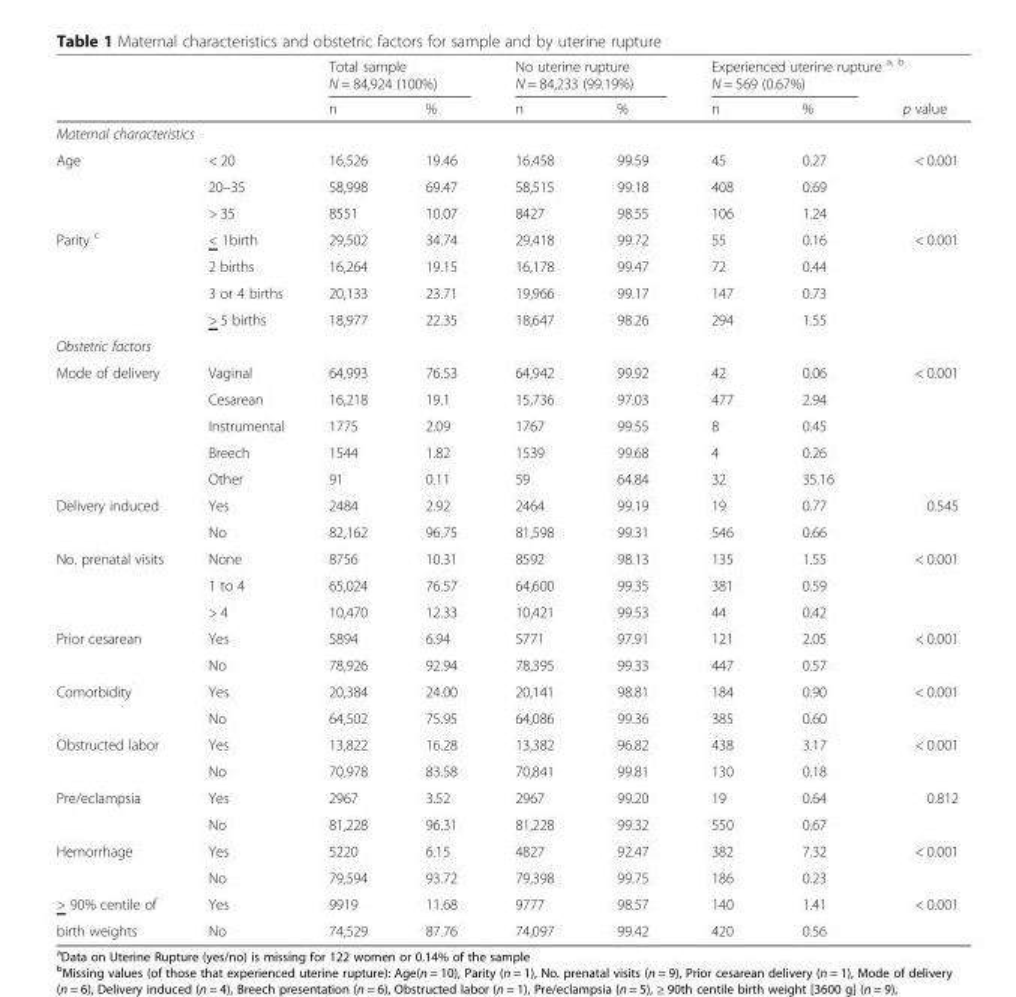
<table><thead><tr><td rowspan="3"></td><td rowspan="3"></td><td rowspan="2" colspan="2">Total sample N = 84,924 (100%)</td><td rowspan="2" colspan="2">No uterine rupture N = 84,233 (99.19%)</td><td colspan="3">Experienced uterine rupture <sup>a, b</sup></td></tr><tr><td colspan="2">N = 569 (0.67%)</td><td rowspan="2">p value</td></tr><tr><td>n</td><td>%</td><td>n</td><td>%</td><td>n</td><td>%</td></tr></thead><tbody><tr><td colspan="9">Maternal characteristics</td></tr><tr><td rowspan="3">Age</td><td>&lt; 20</td><td>16,526</td><td>19.46</td><td>16,458</td><td>99.59</td><td>45</td><td>0.27</td><td>&lt; 0.001</td></tr><tr><td>20–35</td><td>58,998</td><td>69.47</td><td>58,515</td><td>99.18</td><td>408</td><td>0.69</td><td></td></tr><tr><td>&gt; 35</td><td>8551</td><td>10.07</td><td>8427</td><td>98.55</td><td>106</td><td>1.24</td><td></td></tr><tr><td rowspan="4">Parity <sup>c</sup></td><td>&lt; 1birth</td><td>29,502</td><td>34.74</td><td>29,418</td><td>99.72</td><td>55</td><td>0.16</td><td>&lt; 0.001</td></tr><tr><td>2 births</td><td>16,264</td><td>19.15</td><td>16,178</td><td>99.47</td><td>72</td><td>0.44</td><td></td></tr><tr><td>3 or 4 births</td><td>20,133</td><td>23.71</td><td>19,966</td><td>99.17</td><td>147</td><td>0.73</td><td></td></tr><tr><td>&gt; 5 births</td><td>18,977</td><td>22.35</td><td>18,647</td><td>98.26</td><td>294</td><td>1.55</td><td></td></tr><tr><td colspan="9">Obstetric factors</td></tr><tr><td rowspan="5">Mode of delivery</td><td>Vaginal</td><td>64,993</td><td>76.53</td><td>64,942</td><td>99.92</td><td>42</td><td>0.06</td><td>&lt; 0.001</td></tr><tr><td>Cesarean</td><td>16,218</td><td>19.1</td><td>15,736</td><td>97.03</td><td>477</td><td>2.94</td><td></td></tr><tr><td>Instrumental</td><td>1775</td><td>2.09</td><td>1767</td><td>99.55</td><td>8</td><td>0.45</td><td></td></tr><tr><td>Breech</td><td>1544</td><td>1.82</td><td>1539</td><td>99.68</td><td>4</td><td>0.26</td><td></td></tr><tr><td>Other</td><td>91</td><td>0.11</td><td>59</td><td>64.84</td><td>32</td><td>35.16</td><td></td></tr><tr><td rowspan="2">Delivery induced</td><td>Yes</td><td>2484</td><td>2.92</td><td>2464</td><td>99.19</td><td>19</td><td>0.77</td><td>0.545</td></tr><tr><td>No</td><td>82,162</td><td>96.75</td><td>81,598</td><td>99.31</td><td>546</td><td>0.66</td><td></td></tr><tr><td rowspan="3">No. prenatal visits</td><td>None</td><td>8756</td><td>10.31</td><td>8592</td><td>98.13</td><td>135</td><td>1.55</td><td>&lt; 0.001</td></tr><tr><td>1 to 4</td><td>65,024</td><td>76.57</td><td>64,600</td><td>99.35</td><td>381</td><td>0.59</td><td></td></tr><tr><td>&gt; 4</td><td>10,470</td><td>12.33</td><td>10,421</td><td>99.53</td><td>44</td><td>0.42</td><td></td></tr><tr><td rowspan="2">Prior cesarean</td><td>Yes</td><td>5894</td><td>6.94</td><td>5771</td><td>97.91</td><td>121</td><td>2.05</td><td>&lt; 0.001</td></tr><tr><td>No</td><td>78,926</td><td>92.94</td><td>78,395</td><td>99.33</td><td>447</td><td>0.57</td><td></td></tr><tr><td rowspan="2">Comorbidity</td><td>Yes</td><td>20,384</td><td>24.00</td><td>20,141</td><td>98.81</td><td>184</td><td>0.90</td><td>&lt; 0.001</td></tr><tr><td>No</td><td>64,502</td><td>75.95</td><td>64,086</td><td>99.36</td><td>385</td><td>0.60</td><td></td></tr><tr><td rowspan="2">Obstructed labor</td><td>Yes</td><td>13,822</td><td>16.28</td><td>13,382</td><td>96.82</td><td>438</td><td>3.17</td><td>&lt; 0.001</td></tr><tr><td>No</td><td>70,978</td><td>83.58</td><td>70,841</td><td>99.81</td><td>130</td><td>0.18</td><td></td></tr><tr><td rowspan="2">Pre/eclampsia</td><td>Yes</td><td>2967</td><td>3.52</td><td>2967</td><td>99.20</td><td>19</td><td>0.64</td><td>0.812</td></tr><tr><td>No</td><td>81,228</td><td>96.31</td><td>81,228</td><td>99.32</td><td>550</td><td>0.67</td><td></td></tr><tr><td rowspan="2">Hemorrhage</td><td>Yes</td><td>5220</td><td>6.15</td><td>4827</td><td>92.47</td><td>382</td><td>7.32</td><td>&lt; 0.001</td></tr><tr><td>No</td><td>79,594</td><td>93.72</td><td>79,398</td><td>99.75</td><td>186</td><td>0.23</td><td></td></tr><tr><td>&gt; 90% centile of</td><td>Yes</td><td>9919</td><td>11.68</td><td>9777</td><td>98.57</td><td>140</td><td>1.41</td><td>&lt; 0.001</td></tr><tr><td>birth weights</td><td>No</td><td>74,529</td><td>87.76</td><td>74,097</td><td>99.42</td><td>420</td><td>0.56</td><td></td></tr></tbody></table>